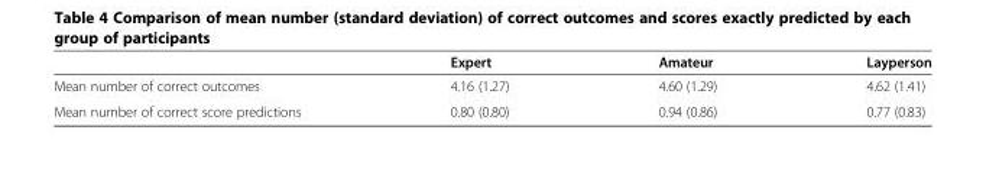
<table><thead><tr><td></td><td>Expert</td><td>Amateur</td><td>Layperson</td></tr></thead><tbody><tr><td>Mean number of correct outcomes</td><td>4.16 (1.27)</td><td>4.60 (1.29)</td><td>4.62 (1.41)</td></tr><tr><td>Mean number of correct score predictions</td><td>0.80 (0.80)</td><td>0.94 (0.86)</td><td>0.77 (0.83)</td></tr></tbody></table>